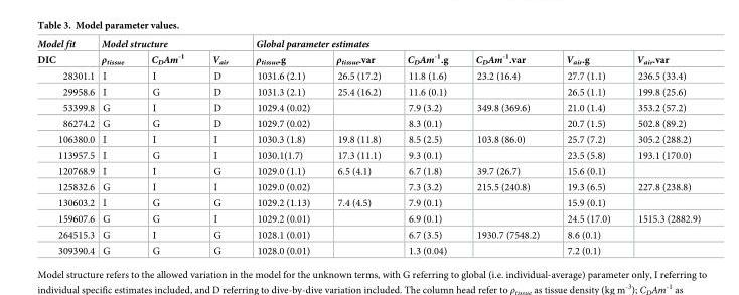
<table><thead><tr><td rowspan="2">Model fit DIC</td><td colspan="3">Model structure</td><td colspan="6">Global parameter estimates</td></tr><tr><td>ρ<sub>tissue</sub></td><td>C<sub>D</sub>Am<sup>-1</sup></td><td>V<sub>air</sub></td><td>ρ<sub>tissue</sub>.g</td><td>ρ<sub>tissue</sub>.var</td><td>C<sub>D</sub>Am<sup>-1</sup>.g</td><td>C<sub>D</sub>Am<sup>-1</sup>.var</td><td>V<sub>air</sub>.g</td><td>V<sub>air</sub>.var</td></tr></thead><tbody><tr><td>28301.1</td><td>I</td><td>I</td><td>D</td><td>1031.6 (2.1)</td><td>26.5 (17.2)</td><td>11.8 (1.6)</td><td>23.2 (16.4)</td><td>27.7 (1.1)</td><td>236.5 (33.4)</td></tr><tr><td>29958.6</td><td>I</td><td>G</td><td>D</td><td>1031.3 (2.1)</td><td>25.4 (16.2)</td><td>11.6 (0.1)</td><td></td><td>26.5 (1.1)</td><td>199.8 (25.6)</td></tr><tr><td>53399.8</td><td>G</td><td>I</td><td>D</td><td>1029.4 (0.02)</td><td></td><td>7.9 (3.2)</td><td>349.8 (369.6)</td><td>21.0 (1.4)</td><td>353.2 (57.2)</td></tr><tr><td>86274.2</td><td>G</td><td>G</td><td>D</td><td>1029.7 (0.02)</td><td></td><td>8.3 (0.1)</td><td></td><td>20.7 (1.5)</td><td>502.8 (89.2)</td></tr><tr><td>106380.0</td><td>I</td><td>I</td><td>I</td><td>1030.3 (1.8)</td><td>19.8 (11.8)</td><td>8.5 (2.5)</td><td>103.8 (86.0)</td><td>25.7 (7.2)</td><td>305.2 (288.2)</td></tr><tr><td>113957.5</td><td>I</td><td>G</td><td>I</td><td>1030.1(1.7)</td><td>17.3 (11.1)</td><td>9.3 (0.1)</td><td></td><td>23.5 (5.8)</td><td>193.1 (170.0)</td></tr><tr><td>120768.9</td><td>I</td><td>I</td><td>G</td><td>1029.0 (1.1)</td><td>6.5 (4.1)</td><td>6.7 (1.8)</td><td>39.7 (26.7)</td><td>15.6 (0.1)</td><td></td></tr><tr><td>125832.6</td><td>G</td><td>I</td><td>I</td><td>1029.0 (0.02)</td><td></td><td>7.3 (3.2)</td><td>215.5 (240.8)</td><td>19.3 (6.5)</td><td>227.8 (238.8)</td></tr><tr><td>130603.2</td><td>I</td><td>G</td><td>G</td><td>1029.2 (1.13)</td><td>7.4 (4.5)</td><td>7.9 (0.1)</td><td></td><td>15.9 (0.1)</td><td></td></tr><tr><td>159607.6</td><td>G</td><td>G</td><td>I</td><td>1029.2 (0.01)</td><td></td><td>6.9 (0.1)</td><td></td><td>24.5 (17.0)</td><td>1515.3 (2882.9)</td></tr><tr><td>264515.3</td><td>G</td><td>I</td><td>G</td><td>1028.1 (0.01)</td><td></td><td>6.7 (3.5)</td><td>1930.7 (7548.2)</td><td>8.6 (0.1)</td><td></td></tr><tr><td>309390.4</td><td>G</td><td>G</td><td>G</td><td>1028.0 (0.01)</td><td></td><td>1.3 (0.04)</td><td></td><td>7.2 (0.1)</td><td></td></tr></tbody></table>